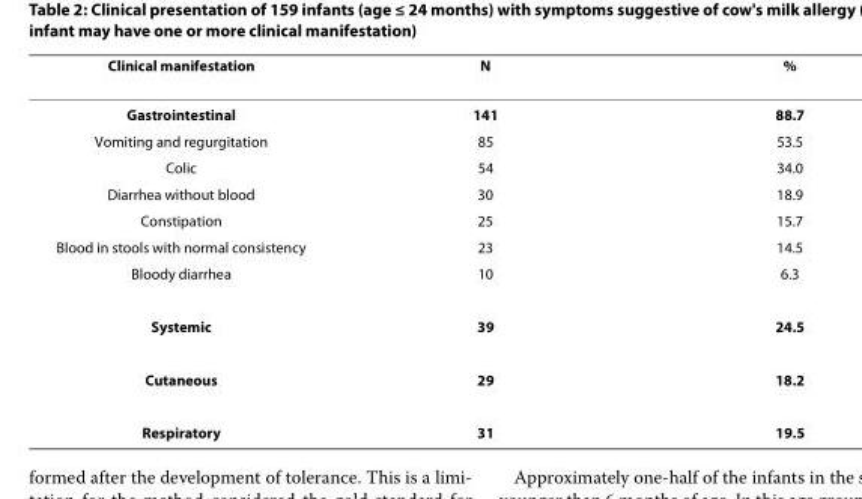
<table><thead><tr><td>Clinical manifestation</td><td>N</td><td>%</td></tr></thead><tbody><tr><td>Gastrointestinal</td><td>141</td><td>88.7</td></tr><tr><td>Vomiting and regurgitation</td><td>85</td><td>53.5</td></tr><tr><td>Colic</td><td>54</td><td>34.0</td></tr><tr><td>Diarrhea without blood</td><td>30</td><td>18.9</td></tr><tr><td>Constipation</td><td>25</td><td>15.7</td></tr><tr><td>Blood in stools with normal consistency</td><td>23</td><td>14.5</td></tr><tr><td>Bloody diarrhea</td><td>10</td><td>6.3</td></tr><tr><td>Systemic</td><td>39</td><td>24.5</td></tr><tr><td>Cutaneous</td><td>29</td><td>18.2</td></tr><tr><td>Respiratory</td><td>31</td><td>19.5</td></tr></tbody></table>